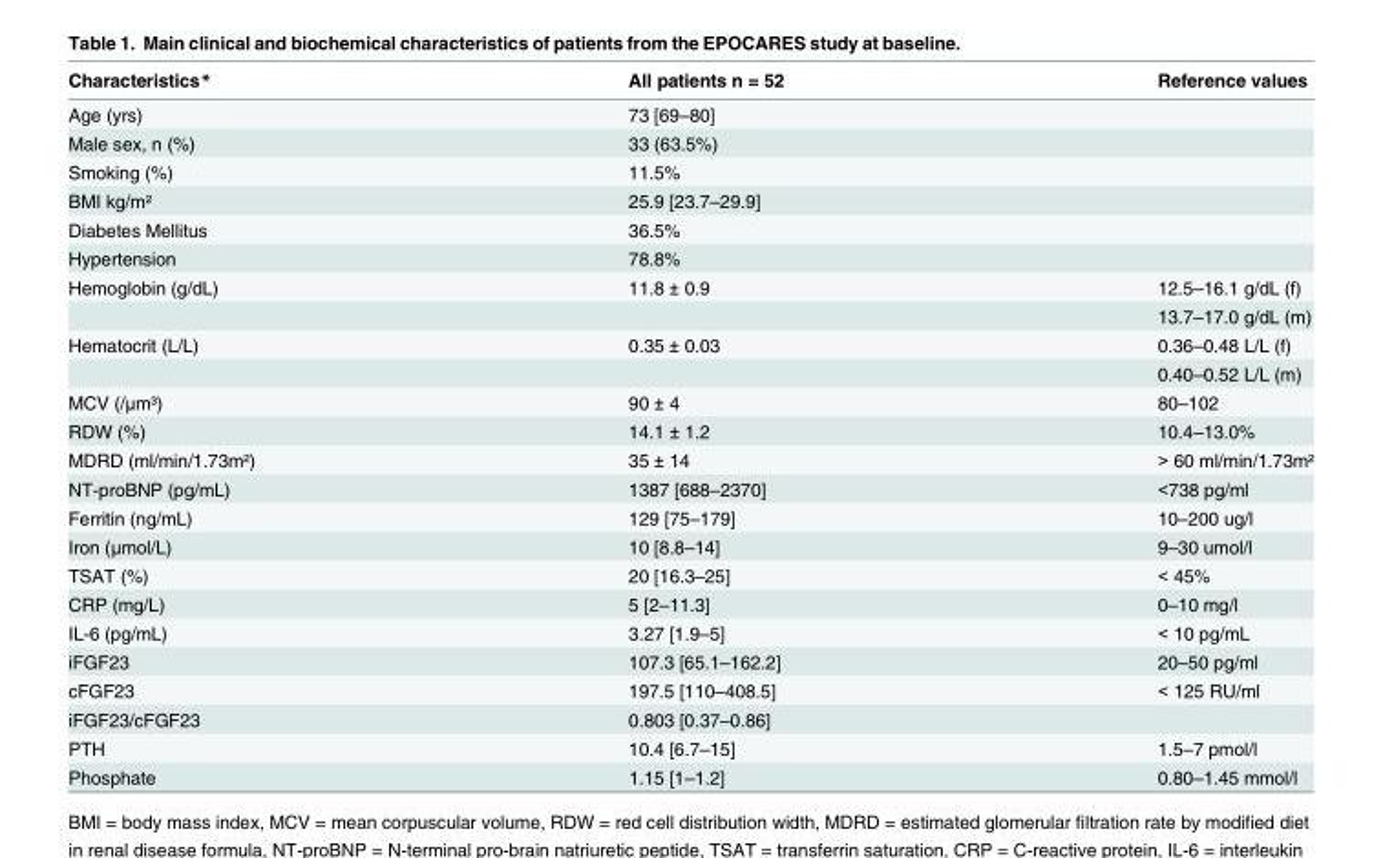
<table><thead><tr><td>Characteristics*</td><td>All patients n = 52</td><td>Reference values</td></tr></thead><tbody><tr><td>Age (yrs)</td><td>73 [69–80]</td><td></td></tr><tr><td>Male sex, n (%)</td><td>33 (63.5%)</td><td></td></tr><tr><td>Smoking (%)</td><td>11.5%</td><td></td></tr><tr><td>BMI kg/m²</td><td>25.9 [23.7–29.9]</td><td></td></tr><tr><td>Diabetes Mellitus</td><td>36.5%</td><td></td></tr><tr><td>Hypertension</td><td>78.8%</td><td></td></tr><tr><td rowspan="2">Hemoglobin (g/dL)</td><td>11.8 ± 0.9</td><td>12.5–16.1 g/dL (f)</td></tr><tr><td></td><td>13.7–17.0 g/dL (m)</td></tr><tr><td rowspan="2">Hematocrit (L/L)</td><td>0.35 ± 0.03</td><td>0.36–0.48 L/L (f)</td></tr><tr><td></td><td>0.40–0.52 L/L (m)</td></tr><tr><td>MCV (/μm³)</td><td>90 ± 4</td><td>80–102</td></tr><tr><td>RDW (%)</td><td>14.1 ± 1.2</td><td>10.4–13.0%</td></tr><tr><td>MDRD (ml/min/1.73m²)</td><td>35 ± 14</td><td>&gt; 60 ml/min/1.73m²</td></tr><tr><td>NT-proBNP (pg/mL)</td><td>1387 [688–2370]</td><td>&lt;738 pg/ml</td></tr><tr><td>Ferritin (ng/mL)</td><td>129 [75–179]</td><td>10–200 ug/l</td></tr><tr><td>Iron (μmol/L)</td><td>10 [8.8–14]</td><td>9–30 umol/l</td></tr><tr><td>TSAT (%)</td><td>20 [16.3–25]</td><td>&lt; 45%</td></tr><tr><td>CRP (mg/L)</td><td>5 [2–11.3]</td><td>0–10 mg/l</td></tr><tr><td>IL-6 (pg/mL)</td><td>3.27 [1.9–5]</td><td>&lt; 10 pg/mL</td></tr><tr><td>iFGF23</td><td>107.3 [65.1–162.2]</td><td>20–50 pg/ml</td></tr><tr><td>cFGF23</td><td>197.5 [110–408.5]</td><td>&lt; 125 RU/ml</td></tr><tr><td>iFGF23/cFGF23</td><td>0.803 [0.37–0.86]</td><td></td></tr><tr><td>PTH</td><td>10.4 [6.7–15]</td><td>1.5–7 pmol/l</td></tr><tr><td>Phosphate</td><td>1.15 [1–1.2]</td><td>0.80–1.45 mmol/l</td></tr></tbody></table>